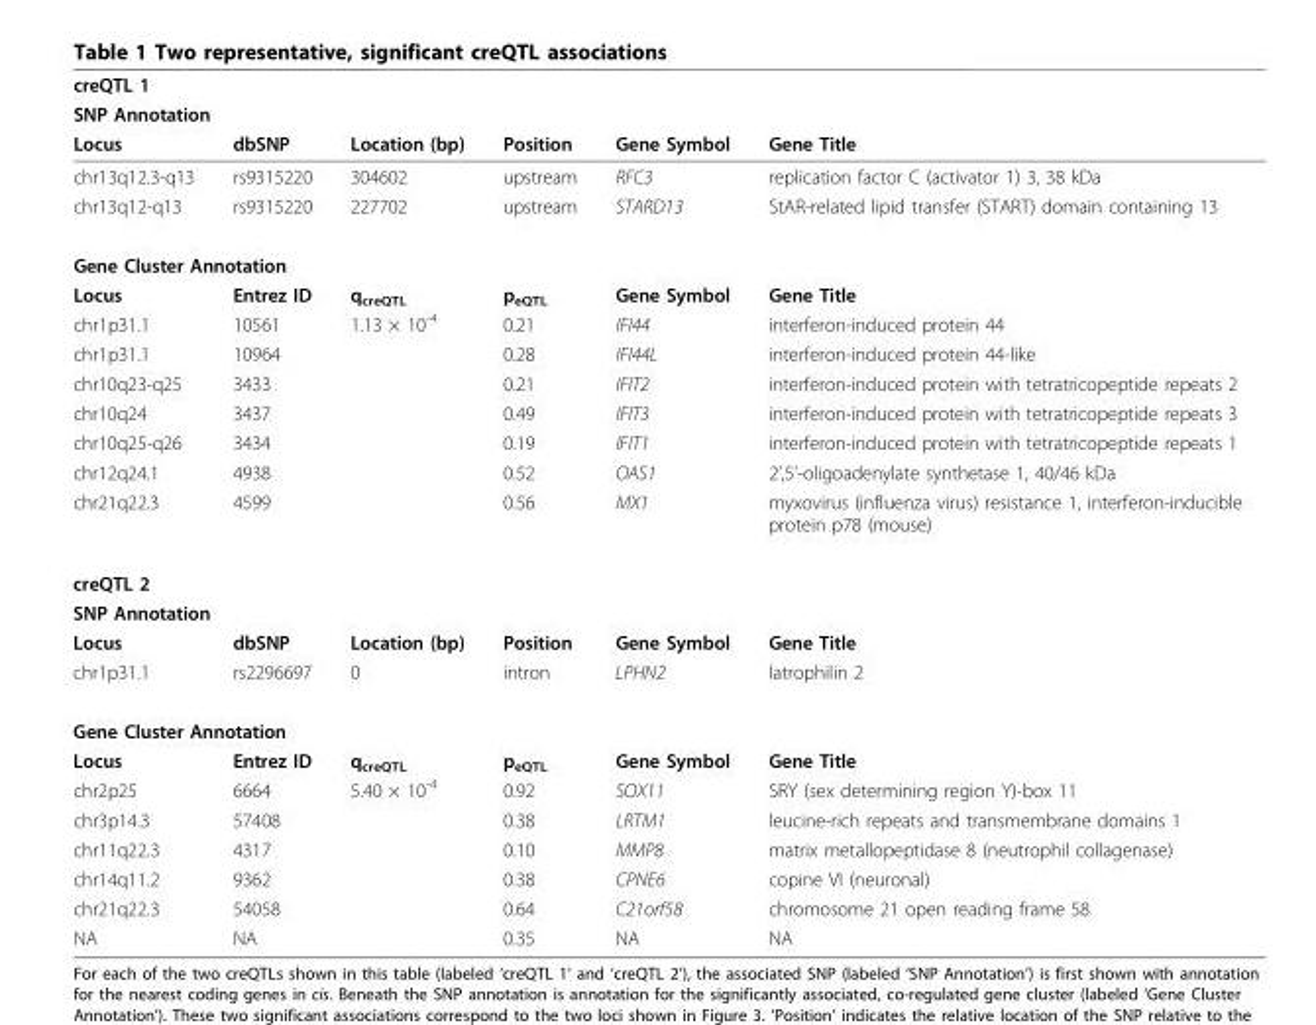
<table><thead><tr><td rowspan="2" colspan="6">creQTL 1 SNP Annotation</td></tr><tr></tr><tr><td>Locus</td><td>dbSNP</td><td>Location (bp)</td><td>Position</td><td>Gene Symbol</td><td>Gene Title</td></tr></thead><tbody><tr><td>chr13q12.3-q13</td><td>rs9315220</td><td>304602</td><td>upstream</td><td>RFC3</td><td>replication factor C (activator 1) 3, 38 kDa</td></tr><tr><td>chr13q12-q13</td><td>rs9315220</td><td>227702</td><td>upstream</td><td>STARD13</td><td>StAR-related lipid transfer (START) domain containing 13</td></tr><tr><td colspan="6">Gene Cluster Annotation</td></tr><tr><td>Locus</td><td>Entrez ID</td><td>q<sub>creQTL</sub></td><td>p<sub>eQTL</sub></td><td>Gene Symbol</td><td>Gene Title</td></tr><tr><td>chr1p31.1</td><td>10561</td><td>1.13 × 10<sup>-4</sup></td><td>0.21</td><td>IFI44</td><td>interferon-induced protein 44</td></tr><tr><td>chr1p31.1</td><td>10964</td><td></td><td>0.28</td><td>IFI44L</td><td>interferon-induced protein 44-like</td></tr><tr><td>chr10q23-q25</td><td>3433</td><td></td><td>0.21</td><td>IFIT2</td><td>interferon-induced protein with tetratricopeptide repeats 2</td></tr><tr><td>chr10q24</td><td>3437</td><td></td><td>0.49</td><td>IFIT3</td><td>interferon-induced protein with tetratricopeptide repeats 3</td></tr><tr><td>chr10q25-q26</td><td>3434</td><td></td><td>0.19</td><td>IFIT1</td><td>interferon-induced protein with tetratricopeptide repeats 1</td></tr><tr><td>chr12q24.1</td><td>4938</td><td></td><td>0.52</td><td>OAS1</td><td>2’,5’-oligoadenylate synthetase 1, 40/46 kDa</td></tr><tr><td>chr21q22.3</td><td>4599</td><td></td><td>0.56</td><td>MX1</td><td>myxovirus (influenza virus) resistance 1, interferon-inducible protein p78 (mouse)</td></tr><tr><td colspan="6">creQTL 2</td></tr><tr><td colspan="6">SNP Annotation</td></tr><tr><td>Locus</td><td>dbSNP</td><td>Location (bp)</td><td>Position</td><td>Gene Symbol</td><td>Gene Title</td></tr><tr><td>chr1p31.1</td><td>rs2296697</td><td>0</td><td>intron</td><td>LPHN2</td><td>latrophilin 2</td></tr><tr><td colspan="6">Gene Cluster Annotation</td></tr><tr><td>Locus</td><td>Entrez ID</td><td>q<sub>creQTL</sub></td><td>p<sub>eQTL</sub></td><td>Gene Symbol</td><td>Gene Title</td></tr><tr><td>chr2p25</td><td>6664</td><td>5.40 × 10<sup>-4</sup></td><td>0.92</td><td>SOX11</td><td>SRY (sex determining region Y)-box 11</td></tr><tr><td>chr3p14.3</td><td>57408</td><td></td><td>0.38</td><td>LRTM1</td><td>leucine-rich repeats and transmembrane domains 1</td></tr><tr><td>chr11q22.3</td><td>4317</td><td></td><td>0.10</td><td>MMP8</td><td>matrix metallopeptidase 8 (neutrophil collagenase)</td></tr><tr><td>chr14q11.2</td><td>9362</td><td></td><td>0.38</td><td>CPNE6</td><td>copine VI (neuronal)</td></tr><tr><td>chr21q22.3</td><td>54058</td><td></td><td>0.64</td><td>C21orf58</td><td>chromosome 21 open reading frame 58</td></tr><tr><td>NA</td><td>NA</td><td></td><td>0.35</td><td>NA</td><td>NA</td></tr></tbody></table>